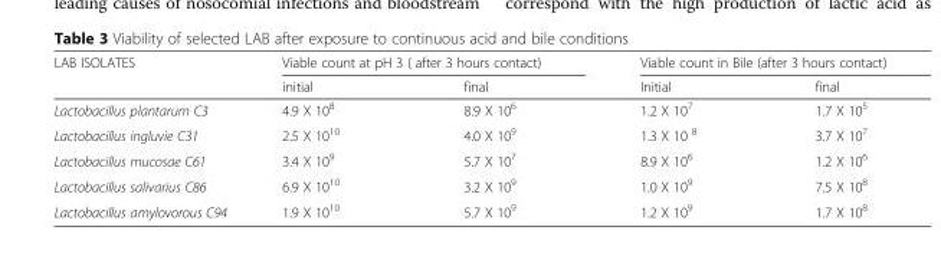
<table><thead><tr><td rowspan="2">LAB ISOLATES</td><td colspan="2">Viable count at pH 3 ( after 3 hours contact)</td><td colspan="2">Viable count in Bile (after 3 hours contact)</td></tr><tr><td>initial</td><td>final</td><td>Initial</td><td>final</td></tr></thead><tbody><tr><td>Lactobacillus plantarum C3</td><td>4.9 X 10<sup>8</sup></td><td>8.9 X 10<sup>6</sup></td><td>1.2 X 10<sup>7</sup></td><td>1.7 X 10<sup>5</sup></td></tr><tr><td>Lactobacillus ingluvie C31</td><td>2.5 X 10<sup>10</sup></td><td>4.0 X 10<sup>9</sup></td><td>1.3 X 10 <sup>8</sup></td><td>3.7 X 10<sup>7</sup></td></tr><tr><td>Lactobacillus mucosae C61</td><td>3.4 X 10<sup>9</sup></td><td>5.7 X 10<sup>7</sup></td><td>8.9 X 10<sup>6</sup></td><td>1.2 X 10<sup>6</sup></td></tr><tr><td>Lactobacillus salivarius C86</td><td>6.9 X 10<sup>10</sup></td><td>3.2 X 10<sup>9</sup></td><td>1.0 X 10<sup>9</sup></td><td>7.5 X 10<sup>8</sup></td></tr><tr><td>Lactobacillus amylovorous C94</td><td>1.9 X 10<sup>10</sup></td><td>5.7 X 10<sup>9</sup></td><td>1.2 X 10<sup>9</sup></td><td>1.7 X 10<sup>8</sup></td></tr></tbody></table>